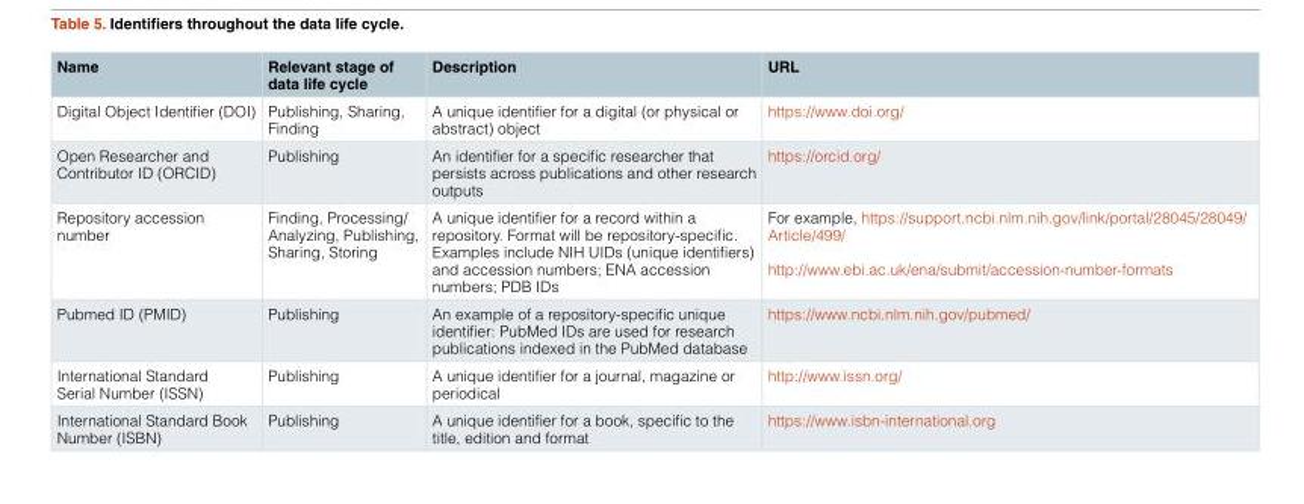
<table><thead><tr><td>Name</td><td>Relevant stage of data life cycle</td><td>Description</td><td>URL</td></tr></thead><tbody><tr><td>Digital Object Identifier (DOI)</td><td>Publishing, Sharing, Finding</td><td>A unique identifier for a digital (or physical or abstract) object</td><td>https://www.doi.org/</td></tr><tr><td>Open Researcher and Contributor ID (ORCID)</td><td>Publishing</td><td>An identifier for a specific researcher that persists across publications and other research outputs</td><td>https://orcid.org/</td></tr><tr><td>Repository accession number</td><td>Finding, Processing/ Analyzing, Publishing, Sharing, Storing</td><td>A unique identifier for a record within a repository. Format will be repository-specific. Examples include NIH UIDs (unique identifiers) and accession numbers; ENA accession numbers; PDB IDs</td><td>For example, https://support.ncbi.nlm.nih.gov/link/portal/28045/28049/ Article/499/ http://www.ebi.ac.uk/ena/submit/accession-number-formats</td></tr><tr><td>Pubmed ID (PMID)</td><td>Publishing</td><td>An example of a repository-specific unique identifier: PubMed IDs are used for research publications indexed in the PubMed database</td><td>https://www.ncbi.nlm.nih.gov/pubmed/</td></tr><tr><td>International Standard Serial Number (ISSN)</td><td>Publishing</td><td>A unique identifier for a journal, magazine or periodical</td><td>http://www.issn.org/</td></tr><tr><td>International Standard Book Number (ISBN)</td><td>Publishing</td><td>A unique identifier for a book, specific to the title, edition and format</td><td>https://www.isbn-international.org</td></tr></tbody></table>